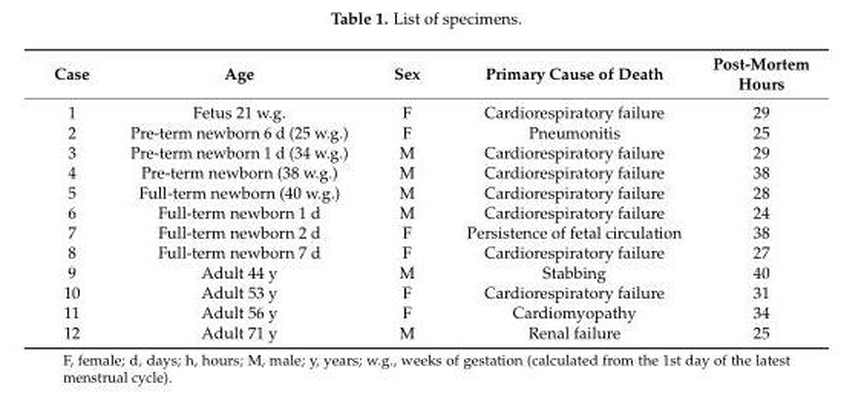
<table><thead><tr><td>Case</td><td>Age</td><td>Sex</td><td>Primary Cause of Death</td><td>Post-Mortem Hours</td></tr></thead><tbody><tr><td>1</td><td>Fetus 21 w.g.</td><td>F</td><td>Cardiorespiratory failure</td><td>29</td></tr><tr><td>2</td><td>Pre-term newborn 6 d (25 w.g.)</td><td>F</td><td>Pneumonitis</td><td>25</td></tr><tr><td>3</td><td>Pre-term newborn 1 d (34 w.g.)</td><td>M</td><td>Cardiorespiratory failure</td><td>29</td></tr><tr><td>4</td><td>Pre-term newborn (38 w.g.)</td><td>M</td><td>Cardiorespiratory failure</td><td>38</td></tr><tr><td>5</td><td>Full-term newborn (40 w.g.)</td><td>M</td><td>Cardiorespiratory failure</td><td>28</td></tr><tr><td>6</td><td>Full-term newborn 1 d</td><td>M</td><td>Cardiorespiratory failure</td><td>24</td></tr><tr><td>7</td><td>Full-term newborn 2 d</td><td>F</td><td>Persistence of fetal circulation</td><td>38</td></tr><tr><td>8</td><td>Full-term newborn 7 d</td><td>F</td><td>Cardiorespiratory failure</td><td>27</td></tr><tr><td>9</td><td>Adult 44 y</td><td>M</td><td>Stabbing</td><td>40</td></tr><tr><td>10</td><td>Adult 53 y</td><td>F</td><td>Cardiorespiratory failure</td><td>31</td></tr><tr><td>11</td><td>Adult 56 y</td><td>F</td><td>Cardiomyopathy</td><td>34</td></tr><tr><td>12</td><td>Adult 71 y</td><td>M</td><td>Renal failure</td><td>25</td></tr></tbody></table>